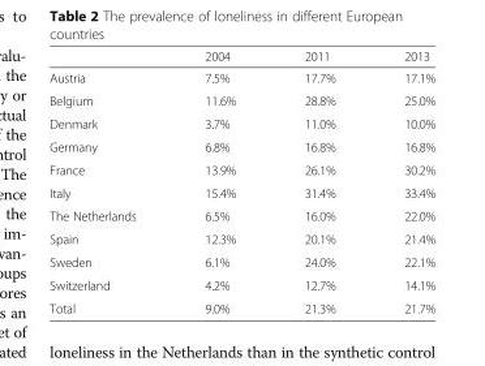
<table><thead><tr><td></td><td>2004</td><td>2011</td><td>2013</td></tr></thead><tbody><tr><td>Austria</td><td>7.5%</td><td>17.7%</td><td>17.1%</td></tr><tr><td>Belgium</td><td>11.6%</td><td>28.8%</td><td>25.0%</td></tr><tr><td>Denmark</td><td>3.7%</td><td>11.0%</td><td>10.0%</td></tr><tr><td>Germany</td><td>6.8%</td><td>16.8%</td><td>16.8%</td></tr><tr><td>France</td><td>13.9%</td><td>26.1%</td><td>30.2%</td></tr><tr><td>Italy</td><td>15.4%</td><td>31.4%</td><td>33.4%</td></tr><tr><td>The Netherlands</td><td>6.5%</td><td>16.0%</td><td>22.0%</td></tr><tr><td>Spain</td><td>12.3%</td><td>20.1%</td><td>21.4%</td></tr><tr><td>Sweden</td><td>6.1%</td><td>24.0%</td><td>22.1%</td></tr><tr><td>Switzerland</td><td>4.2%</td><td>12.7%</td><td>14.1%</td></tr><tr><td>Total</td><td>9.0%</td><td>21.3%</td><td>21.7%</td></tr></tbody></table>